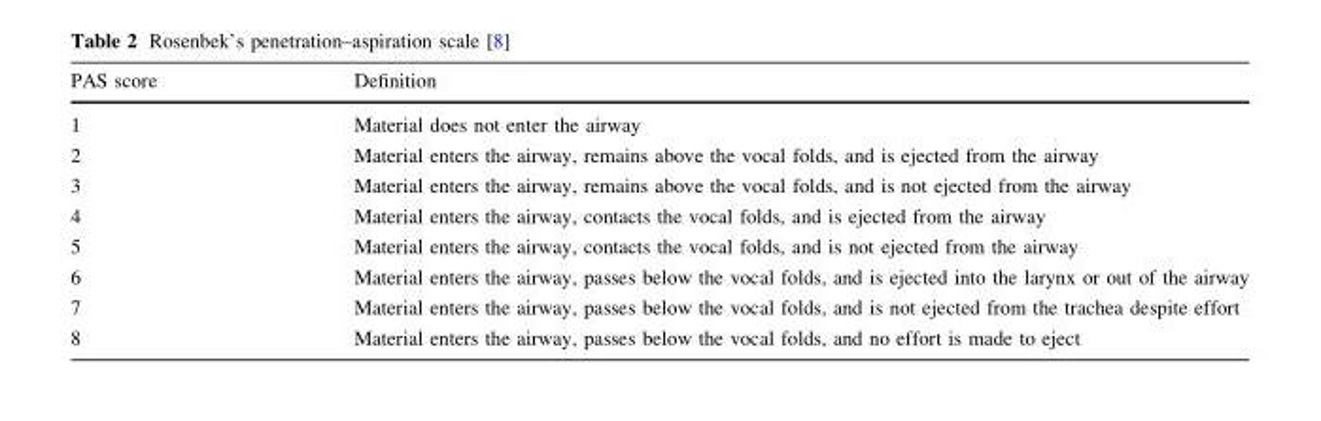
<table><thead><tr><td>PAS score</td><td>Definition</td></tr></thead><tbody><tr><td>1</td><td>Material does not enter the airway</td></tr><tr><td>2</td><td>Material enters the airway, remains above the vocal folds, and is ejected from the airway</td></tr><tr><td>3</td><td>Material enters the airway, remains above the vocal folds, and is not ejected from the airway</td></tr><tr><td>4</td><td>Material enters the airway, contacts the vocal folds, and is ejected from the airway</td></tr><tr><td>5</td><td>Material enters the airway, contacts the vocal folds, and is not ejected from the airway</td></tr><tr><td>6</td><td>Material enters the airway, passes below the vocal folds, and is ejected into the larynx or out of the airway</td></tr><tr><td>7</td><td>Material enters the airway, passes below the vocal folds, and is not ejected from the trachea despite effort</td></tr><tr><td>8</td><td>Material enters the airway, passes below the vocal folds, and no effort is made to eject</td></tr></tbody></table>